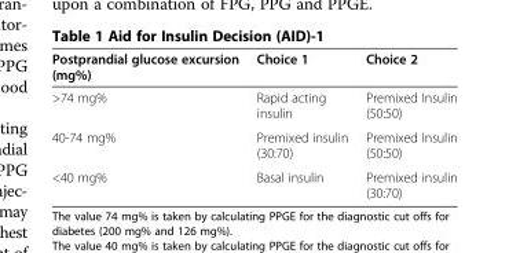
<table><thead><tr><td>Postprandial glucose excursion (mg%)</td><td>Choice 1</td><td>Choice 2</td></tr></thead><tbody><tr><td>&gt;74 mg%</td><td>Rapid acting insulin</td><td>Premixed Insulin (50:50)</td></tr><tr><td>40-74 mg%</td><td>Premixed insulin (30:70)</td><td>Premixed Insulin (50:50)</td></tr><tr><td>&lt;40 mg%</td><td>Basal insulin</td><td>Premixed insulin (30:70)</td></tr></tbody></table>